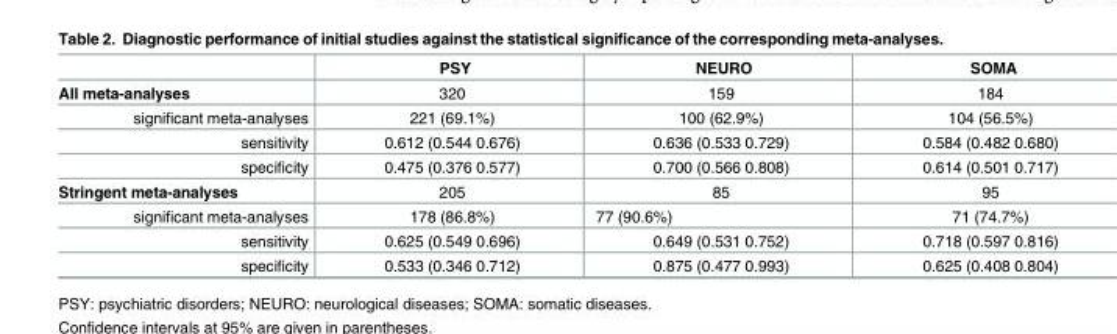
<table><thead><tr><td></td><td>PSY</td><td>NEURO</td><td>SOMA</td></tr></thead><tbody><tr><td>All meta-analyses</td><td>320</td><td>159</td><td>184</td></tr><tr><td>significant meta-analyses</td><td>221 (69.1%)</td><td>100 (62.9%)</td><td>104 (56.5%)</td></tr><tr><td>sensitivity</td><td>0.612 (0.544 0.676)</td><td>0.636 (0.533 0.729)</td><td>0.584 (0.482 0.680)</td></tr><tr><td>specificity</td><td>0.475 (0.376 0.577)</td><td>0.700 (0.566 0.808)</td><td>0.614 (0.501 0.717)</td></tr><tr><td>Stringent meta-analyses</td><td>205</td><td>85</td><td>95</td></tr><tr><td>significant meta-analyses</td><td>178 (86.8%)</td><td>77 (90.6%)</td><td>71 (74.7%)</td></tr><tr><td>sensitivity</td><td>0.625 (0.549 0.696)</td><td>0.649 (0.531 0.752)</td><td>0.718 (0.597 0.816)</td></tr><tr><td>specificity</td><td>0.533 (0.346 0.712)</td><td>0.875 (0.477 0.993)</td><td>0.625 (0.408 0.804)</td></tr></tbody></table>